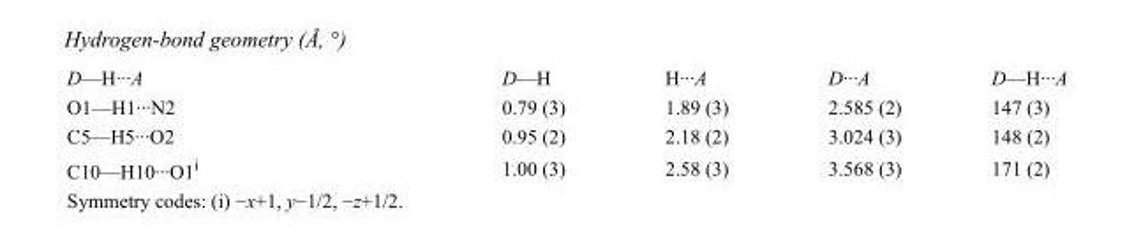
<table><tbody><tr><td>D—H···A</td><td>D—H</td><td>H···A</td><td>D···A</td><td>D—H···A</td></tr><tr><td>O1—H1···N2</td><td>0.79 (3)</td><td>1.89 (3)</td><td>2.585 (2)</td><td>147 (3)</td></tr><tr><td>C5—H5···O2</td><td>0.95 (2)</td><td>2.18 (2)</td><td>3.024 (3)</td><td>148 (2)</td></tr><tr><td>C10—H10···O1<sup>i</sup></td><td>1.00 (3)</td><td>2.58 (3)</td><td>3.568 (3)</td><td>171 (2)</td></tr></tbody></table>